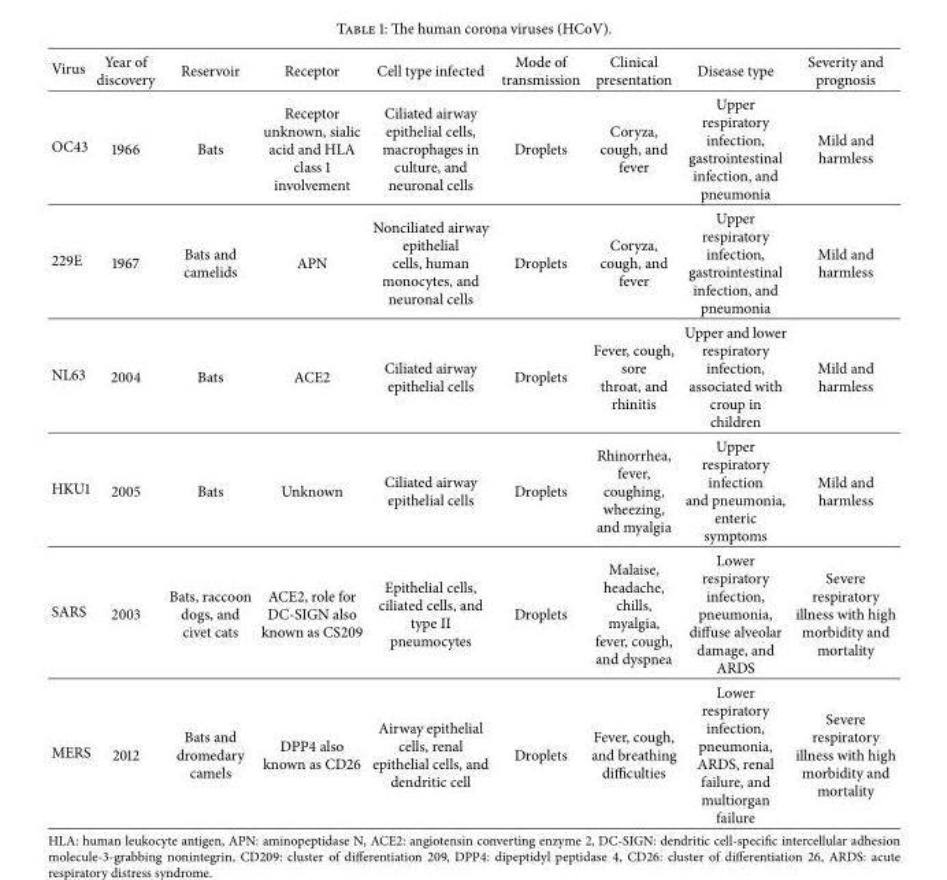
<table><thead><tr><td>Virus</td><td>Year of discovery</td><td>Reservoir</td><td>Receptor</td><td>Cell type infected</td><td>Mode of transmission</td><td>Clinical presentation</td><td>Disease type</td><td>Severity and prognosis</td></tr></thead><tbody><tr><td>OC43</td><td>1966</td><td>Bats</td><td>Receptor unknown, sialic acid and HLA class 1 involvement</td><td>Ciliated airway epithelial cells, macrophages in culture, and neuronal cells</td><td>Droplets</td><td>Coryza, cough, and fever</td><td>Upper respiratory infection, gastrointestinal infection, and pneumonia</td><td>Mild and harmless</td></tr><tr><td>229E</td><td>1967</td><td>Bats and camelids</td><td>APN</td><td>Nonciliated airway epithelial cells, human monocytes, and neuronal cells</td><td>Droplets</td><td>Coryza, cough, and fever</td><td>Upper respiratory infection, gastrointestinal infection, and pneumonia</td><td>Mild and harmless</td></tr><tr><td>NL63</td><td>2004</td><td>Bats</td><td>ACE2</td><td>Ciliated airway epithelial cells</td><td>Droplets</td><td>Fever, cough, sore throat, and rhinitis</td><td>Upper and lower respiratory infection, associated with croup in children</td><td>Mild and harmless</td></tr><tr><td>HKU1</td><td>2005</td><td>Bats</td><td>Unknown</td><td>Ciliated airway epithelial cells</td><td>Droplets</td><td>Rhinorrhea, fever, coughing, wheezing, and myalgia</td><td>Upper respiratory infection and pneumonia, enteric symptoms</td><td>Mild and harmless</td></tr><tr><td>SARS</td><td>2003</td><td>Bats, raccoon dogs, and civet cats</td><td>ACE2, role for DC-SIGN also known as CS209</td><td>Epithelial cells, ciliated cells, and type II pneumocytes</td><td>Droplets</td><td>Malaise, headache, chills, myalgia, fever, cough, and dyspnea</td><td>Lower respiratory infection, pneumonia, diffuse alveolar damage, and ARDS</td><td>Severe respiratory illness with high morbidity and mortality</td></tr><tr><td>MERS</td><td>2012</td><td>Bats and dromedary camels</td><td>DPP4 also known as CD26</td><td>Airway epithelial cells, renal epithelial cells, and dendritic cell</td><td>Droplets</td><td>Fever, cough, and breathing difficulties</td><td>Lower respiratory infection, pneumonia, ARDS, renal failure, and multiorgan failure</td><td>Severe respiratory illness with high morbidity and mortality</td></tr></tbody></table>